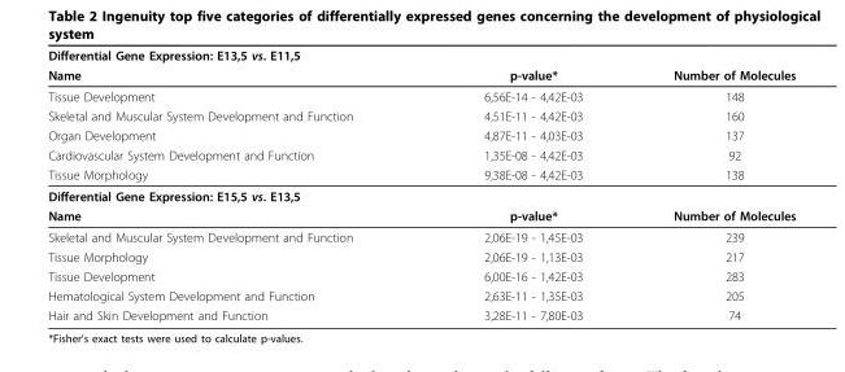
<table><thead><tr><td rowspan="2">Differential Gene Expression: E13,5 vs. E11,5 Name</td><td rowspan="2">p-value*</td><td rowspan="2">Number of Molecules</td></tr><tr></tr></thead><tbody><tr><td>Tissue Development</td><td>6,56E-14 - 4,42E-03</td><td>148</td></tr><tr><td>Skeletal and Muscular System Development and Function</td><td>4,51E-11 - 4,42E-03</td><td>160</td></tr><tr><td>Organ Development</td><td>4,87E-11 - 4,03E-03</td><td>137</td></tr><tr><td>Cardiovascular System Development and Function</td><td>1,35E-08 - 4,42E-03</td><td>92</td></tr><tr><td>Tissue Morphology</td><td>9,38E-08 - 4,42E-03</td><td>138</td></tr><tr><td colspan="3">Differential Gene Expression: E15,5 vs. E13,5</td></tr><tr><td>Name</td><td>p-value*</td><td>Number of Molecules</td></tr><tr><td>Skeletal and Muscular System Development and Function</td><td>2,06E-19 - 1,45E-03</td><td>239</td></tr><tr><td>Tissue Morphology</td><td>2,06E-19 - 1,13E-03</td><td>217</td></tr><tr><td>Tissue Development</td><td>6,00E-16 - 1,42E-03</td><td>283</td></tr><tr><td>Hematological System Development and Function</td><td>2,63E-11 - 1,35E-03</td><td>205</td></tr><tr><td>Hair and Skin Development and Function</td><td>3,28E-11 - 7,80E-03</td><td>74</td></tr></tbody></table>